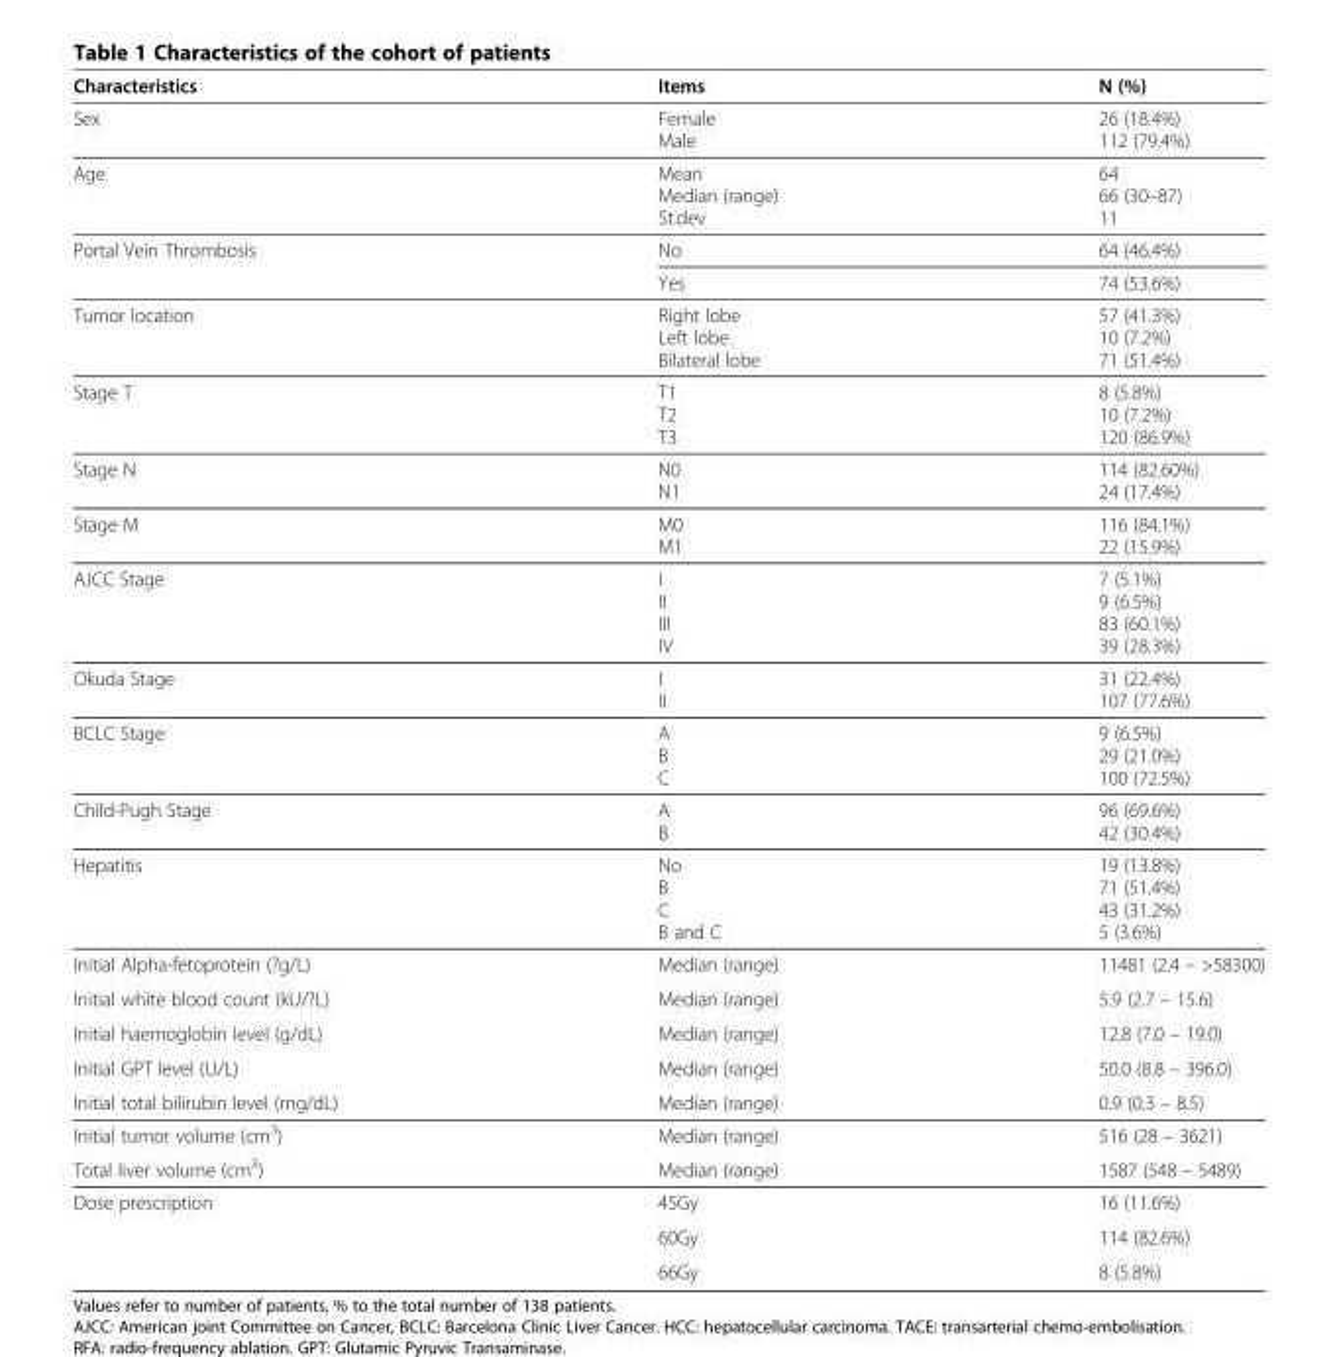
<table><thead><tr><td>Characteristics</td><td>Items</td><td>N (%)</td></tr></thead><tbody><tr><td rowspan="2">Sex</td><td>Female</td><td>26 (18.4%)</td></tr><tr><td>Male</td><td>112 (79.4%)</td></tr><tr><td rowspan="3">Age</td><td>Mean</td><td>64</td></tr><tr><td>Median (range)</td><td>66 (30–87)</td></tr><tr><td>St.dev</td><td>11</td></tr><tr><td rowspan="2">Portal Vein Thrombosis</td><td>No</td><td>64 (46.4%)</td></tr><tr><td>Yes</td><td>74 (53.6%)</td></tr><tr><td rowspan="3">Tumor location</td><td>Right lobe</td><td>57 (41.3%)</td></tr><tr><td>Left lobe</td><td>10 (7.2%)</td></tr><tr><td>Bilateral lobe</td><td>71 (51.4%)</td></tr><tr><td rowspan="3">Stage T</td><td>T1</td><td>8 (5.8%)</td></tr><tr><td>T2</td><td>10 (7.2%)</td></tr><tr><td>T3</td><td>120 (86.9%)</td></tr><tr><td rowspan="2">Stage N</td><td>N0</td><td>114 (82.60%)</td></tr><tr><td>N1</td><td>24 (17.4%)</td></tr><tr><td rowspan="2">Stage M</td><td>M0</td><td>116 (84.1%)</td></tr><tr><td>M1</td><td>22 (15.9%)</td></tr><tr><td rowspan="4">AJCC Stage</td><td>I</td><td>7 (5.1%)</td></tr><tr><td>II</td><td>9 (6.5%)</td></tr><tr><td>III</td><td>83 (60.1%)</td></tr><tr><td>IV</td><td>39 (28.3%)</td></tr><tr><td rowspan="2">Okuda Stage</td><td>I</td><td>31 (22.4%)</td></tr><tr><td>II</td><td>107 (77.6%)</td></tr><tr><td rowspan="3">BCLC Stage</td><td>A</td><td>9 (6.5%)</td></tr><tr><td>B</td><td>29 (21.0%)</td></tr><tr><td>C</td><td>100 (72.5%)</td></tr><tr><td rowspan="2">Child-Pugh Stage</td><td>A</td><td>96 (69.6%)</td></tr><tr><td>B</td><td>42 (30.4%)</td></tr><tr><td rowspan="4">Hepatitis</td><td>No</td><td>19 (13.8%)</td></tr><tr><td>B</td><td>71 (51.4%)</td></tr><tr><td>C</td><td>43 (31.2%)</td></tr><tr><td>B and C</td><td>5 (3.6%)</td></tr><tr><td>Initial Alpha-fetoprotein (?g/L)</td><td>Median (range)</td><td>11481 (2.4 – &gt;58300)</td></tr><tr><td>Initial white blood count (kU/?L)</td><td>Median (range)</td><td>5.9 (2.7 – 15.6)</td></tr><tr><td>Initial haemoglobin level (g/dL)</td><td>Median (range)</td><td>12.8 (7.0 – 19.0)</td></tr><tr><td>Initial GPT level (U/L)</td><td>Median (range)</td><td>50.0 (8.8 – 396.0)</td></tr><tr><td>Initial total bilirubin level (mg/dL)</td><td>Median (range)</td><td>0.9 (0.3 – 8.5)</td></tr><tr><td>Initial tumor volume (cm<sup>3</sup>)</td><td>Median (range)</td><td>516 (28 – 3621)</td></tr><tr><td>Total liver volume (cm<sup>3</sup>)</td><td>Median (range)</td><td>1587 (548 – 5489)</td></tr><tr><td rowspan="3">Dose prescription</td><td>45Gy</td><td>16 (11.6%)</td></tr><tr><td>60Gy</td><td>114 (82.6%)</td></tr><tr><td>66Gy</td><td>8 (5.8%)</td></tr></tbody></table>